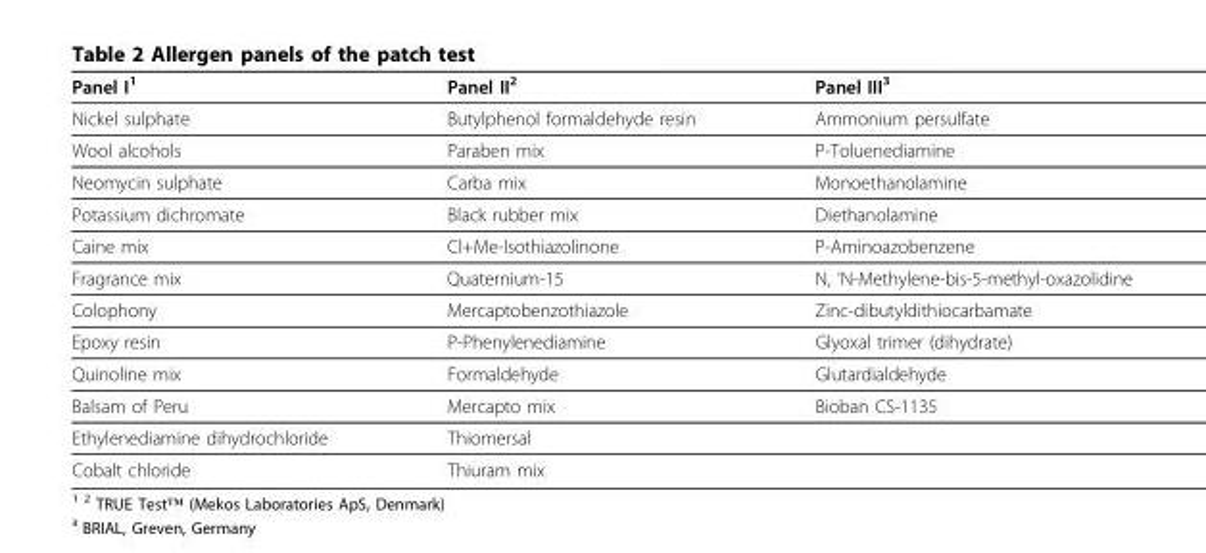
<table><thead><tr><td>Panel I<sup>1</sup></td><td>Panel II<sup>2</sup></td><td>Panel III<sup>3</sup></td></tr></thead><tbody><tr><td>Nickel sulphate</td><td>Butylphenol formaldehyde resin</td><td>Ammonium persulfate</td></tr><tr><td>Wool alcohols</td><td>Paraben mix</td><td>P-Toluenediamine</td></tr><tr><td>Neomycin sulphate</td><td>Carba mix</td><td>Monoethanolamine</td></tr><tr><td>Potassium dichromate</td><td>Black rubber mix</td><td>Diethanolamine</td></tr><tr><td>Caine mix</td><td>Cl+Me-Isothiazolinone</td><td>P-Aminoazobenzene</td></tr><tr><td>Fragrance mix</td><td>Quaternium-15</td><td>N, ‘N-Methylene-bis-5-methyl-oxazolidine</td></tr><tr><td>Colophony</td><td>Mercaptobenzothiazole</td><td>Zinc-dibutyldithiocarbamate</td></tr><tr><td>Epoxy resin</td><td>P-Phenylenediamine</td><td>Glyoxal trimer (dihydrate)</td></tr><tr><td>Quinoline mix</td><td>Formaldehyde</td><td>Glutardialdehyde</td></tr><tr><td>Balsam of Peru</td><td>Mercapto mix</td><td>Bioban CS-1135</td></tr><tr><td>Ethylenediamine dihydrochloride</td><td>Thiomersal</td><td></td></tr><tr><td>Cobalt chloride</td><td>Thiuram mix</td><td></td></tr></tbody></table>